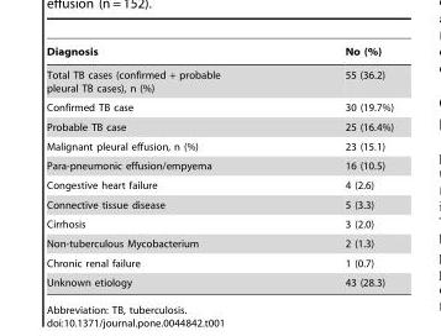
<table><thead><tr><td>Diagnosis</td><td>No (%)</td></tr></thead><tbody><tr><td>Total TB cases (confirmed + probable pleural TB cases), n (%)</td><td>55 (36.2)</td></tr><tr><td>Confirmed TB case</td><td>30 (19.7%)</td></tr><tr><td>Probable TB case</td><td>25 (16.4%)</td></tr><tr><td>Malignant pleural effusion, n (%)</td><td>23 (15.1)</td></tr><tr><td>Para-pneumonic effusion/empyema</td><td>16 (10.5)</td></tr><tr><td>Congestive heart failure</td><td>4 (2.6)</td></tr><tr><td>Connective tissue disease</td><td>5 (3.3)</td></tr><tr><td>Cirrhosis</td><td>3 (2.0)</td></tr><tr><td>Non-tuberculous Mycobacterium</td><td>2 (1.3)</td></tr><tr><td>Chronic renal failure</td><td>1 (0.7)</td></tr><tr><td>Unknown etiology</td><td>43 (28.3)</td></tr></tbody></table>